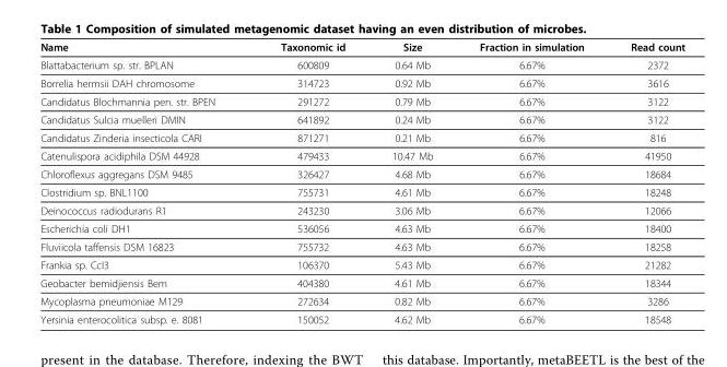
<table><thead><tr><td>Name</td><td>Taxonomic id</td><td>Size</td><td>Fraction in simulation</td><td>Read count</td></tr></thead><tbody><tr><td>Blattabacterium sp. str. BPLAN</td><td>600809</td><td>0.64 Mb</td><td>6.67%</td><td>2372</td></tr><tr><td>Borrelia hermsii DAH chromosome</td><td>314723</td><td>0.92 Mb</td><td>6.67%</td><td>3616</td></tr><tr><td>Candidatus Blochmannia pen. str. BPEN</td><td>291272</td><td>0.79 Mb</td><td>6.67%</td><td>3122</td></tr><tr><td>Candidatus Sulcia muelleri DMIN</td><td>641892</td><td>0.24 Mb</td><td>6.67%</td><td>3122</td></tr><tr><td>Candidatus Zinderia insecticola CARI</td><td>871271</td><td>0.21 Mb</td><td>6.67%</td><td>816</td></tr><tr><td>Catenulispora acidiphila DSM 44928</td><td>479433</td><td>10.47 Mb</td><td>6.67%</td><td>41950</td></tr><tr><td>Chloroflexus aggregans DSM 9485</td><td>326427</td><td>4.68 Mb</td><td>6.67%</td><td>18684</td></tr><tr><td>Clostridium sp. BNL1100</td><td>755731</td><td>4.61 Mb</td><td>6.67%</td><td>18248</td></tr><tr><td>Deinococcus radiodurans R1</td><td>243230</td><td>3.06 Mb</td><td>6.67%</td><td>12066</td></tr><tr><td>Escherichia coli DH1</td><td>536056</td><td>4.63 Mb</td><td>6.67%</td><td>18400</td></tr><tr><td>Fluviicola taffensis DSM 16823</td><td>755732</td><td>4.63 Mb</td><td>6.67%</td><td>18258</td></tr><tr><td>Frankia sp. CcI3</td><td>106370</td><td>5.43 Mb</td><td>6.67%</td><td>21282</td></tr><tr><td>Geobacter bemidjiensis Bem</td><td>404380</td><td>4.61 Mb</td><td>6.67%</td><td>18344</td></tr><tr><td>Mycoplasma pneumoniae M129</td><td>272634</td><td>0.82 Mb</td><td>6.67%</td><td>3286</td></tr><tr><td>Yersinia enterocolitica subsp. e. 8081</td><td>150052</td><td>4.62 Mb</td><td>6.67%</td><td>18548</td></tr></tbody></table>